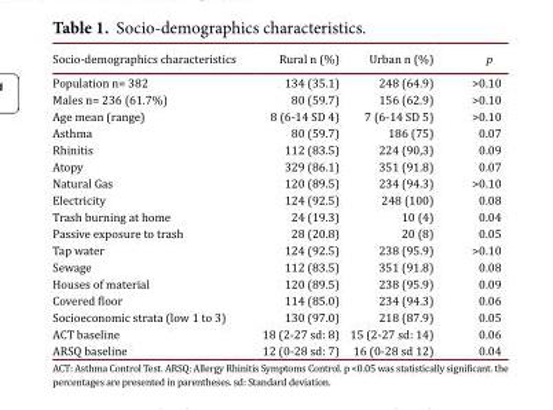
<table><thead><tr><td>Socio-demographics characteristics</td><td>Rural n (%)</td><td>Urban n (%)</td><td>p</td></tr></thead><tbody><tr><td>Population n= 382</td><td>134 (35.1)</td><td>248 (64.9)</td><td>&gt;0.10</td></tr><tr><td>Males n= 236 (61.7%)</td><td>80 (59.7)</td><td>156 (62.9)</td><td>&gt;0.10</td></tr><tr><td>Age mean (range)</td><td>8 (6-14 SD 4)</td><td>7 (6-14 SD 5)</td><td>&gt;0.10</td></tr><tr><td>Asthma</td><td>80 (59.7)</td><td>186 (75)</td><td>0.07</td></tr><tr><td>Rhinitis</td><td>112 (83.5)</td><td>224 (90,3)</td><td>0.09</td></tr><tr><td>Atopy</td><td>329 (86.1)</td><td>351 (91.8)</td><td>0.07</td></tr><tr><td>Natural Gas</td><td>120 (89.5)</td><td>234 (94.3)</td><td>&gt;0.10</td></tr><tr><td>Electricity</td><td>124 (92.5)</td><td>248 (100)</td><td>0.08</td></tr><tr><td>Trash burning at home</td><td>24 (19.3)</td><td>10 (4)</td><td>0.04</td></tr><tr><td>Passive exposure to trash</td><td>28 (20.8)</td><td>20 (8)</td><td>0.05</td></tr><tr><td>Tap water</td><td>124 (92.5)</td><td>238 (95.9)</td><td>&gt;0.10</td></tr><tr><td>Sewage</td><td>112 (83.5)</td><td>351 (91.8)</td><td>0.08</td></tr><tr><td>Houses of material</td><td>120 (89.5)</td><td>238 (95.9)</td><td>0.09</td></tr><tr><td>Covered floor</td><td>114 (85.0)</td><td>234 (94.3)</td><td>0.06</td></tr><tr><td>Socioeconomic strata (low 1 to 3)</td><td>130 (97.0)</td><td>218 (87.9)</td><td>0.05</td></tr><tr><td>ACT baseline</td><td>18 (2-27 sd: 8)</td><td>15 (2-27 sd: 14)</td><td>0.06</td></tr><tr><td>ARSQ baseline</td><td>12 (0-28 sd: 7)</td><td>16 (0-28 sd 12)</td><td>0.04</td></tr></tbody></table>